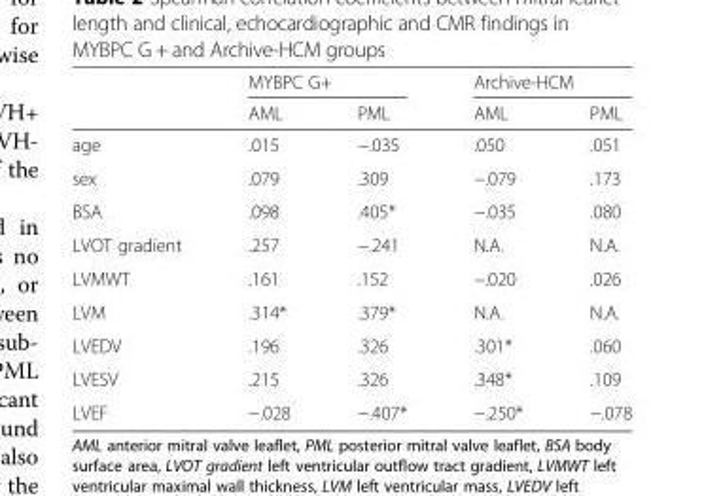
<table><thead><tr><td rowspan="2"></td><td colspan="2">MYBPC G+</td><td colspan="2">Archive-HCM</td></tr><tr><td>AML</td><td>PML</td><td>AML</td><td>PML</td></tr></thead><tbody><tr><td>age</td><td>.015</td><td>−.035</td><td>.050</td><td>.051</td></tr><tr><td>sex</td><td>.079</td><td>.309</td><td>−.079</td><td>.173</td></tr><tr><td>BSA</td><td>.098</td><td>.405*</td><td>−.035</td><td>.080</td></tr><tr><td>LVOT gradient</td><td>.257</td><td>−.241</td><td>N.A.</td><td>N.A.</td></tr><tr><td>LVMWT</td><td>.161</td><td>.152</td><td>−.020</td><td>.026</td></tr><tr><td>LVM</td><td>.314*</td><td>.379*</td><td>N.A.</td><td>N.A.</td></tr><tr><td>LVEDV</td><td>.196</td><td>.326</td><td>.301*</td><td>.060</td></tr><tr><td>LVESV</td><td>.215</td><td>.326</td><td>.348*</td><td>.109</td></tr><tr><td>LVEF</td><td>−.028</td><td>−.407*</td><td>−.250*</td><td>−.078</td></tr></tbody></table>